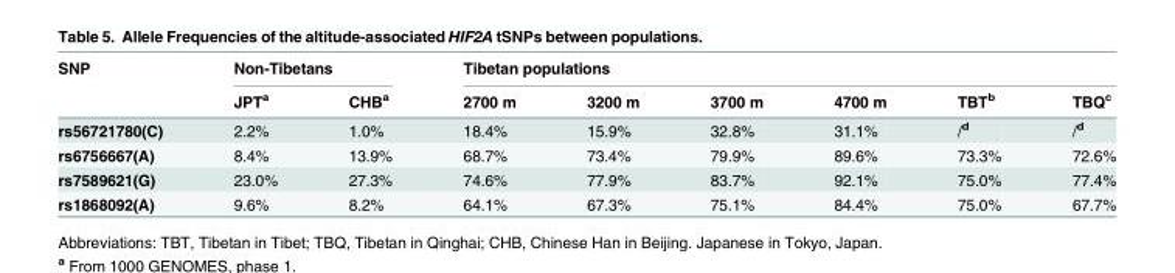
<table><thead><tr><td rowspan="2">SNP</td><td colspan="2">Non-Tibetans</td><td colspan="6">Tibetan populations</td></tr><tr><td>JPT<sup>a</sup></td><td>CHB<sup>a</sup></td><td>2700 m</td><td>3200 m</td><td>3700 m</td><td>4700 m</td><td>TBT<sup>b</sup></td><td>TBQ<sup>c</sup></td></tr></thead><tbody><tr><td>rs56721780(C)</td><td>2.2%</td><td>1.0%</td><td>18.4%</td><td>15.9%</td><td>32.8%</td><td>31.1%</td><td>/<sup>d</sup></td><td>/<sup>d</sup></td></tr><tr><td>rs6756667(A)</td><td>8.4%</td><td>13.9%</td><td>68.7%</td><td>73.4%</td><td>79.9%</td><td>89.6%</td><td>73.3%</td><td>72.6%</td></tr><tr><td>rs7589621(G)</td><td>23.0%</td><td>27.3%</td><td>74.6%</td><td>77.9%</td><td>83.7%</td><td>92.1%</td><td>75.0%</td><td>77.4%</td></tr><tr><td>rs1868092(A)</td><td>9.6%</td><td>8.2%</td><td>64.1%</td><td>67.3%</td><td>75.1%</td><td>84.4%</td><td>75.0%</td><td>67.7%</td></tr></tbody></table>